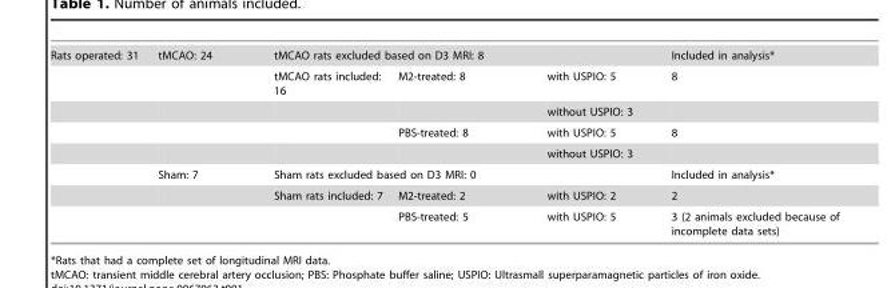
<table><tbody><tr><td rowspan="8">Rats operated: 31</td><td>tMCAO: 24</td><td colspan="3">tMCAO rats excluded based on D3 MRI: 8</td><td>Included in analysis*</td></tr><tr><td></td><td>tMCAO rats included: 16</td><td>M2-treated: 8</td><td>with USPIO: 5</td><td>8</td></tr><tr><td></td><td></td><td></td><td>without USPIO: 3</td><td></td></tr><tr><td></td><td></td><td>PBS-treated: 8</td><td>with USPIO: 5</td><td>8</td></tr><tr><td></td><td></td><td></td><td>without USPIO: 3</td><td></td></tr><tr><td>Sham: 7</td><td colspan="3">Sham rats excluded based on D3 MRI: 0</td><td>Included in analysis*</td></tr><tr><td></td><td>Sham rats included: 7</td><td>M2-treated: 2</td><td>with USPIO: 2</td><td>2</td></tr><tr><td></td><td></td><td>PBS-treated: 5</td><td>with USPIO: 5</td><td>3 (2 animals excluded because of incomplete data sets)</td></tr></tbody></table>